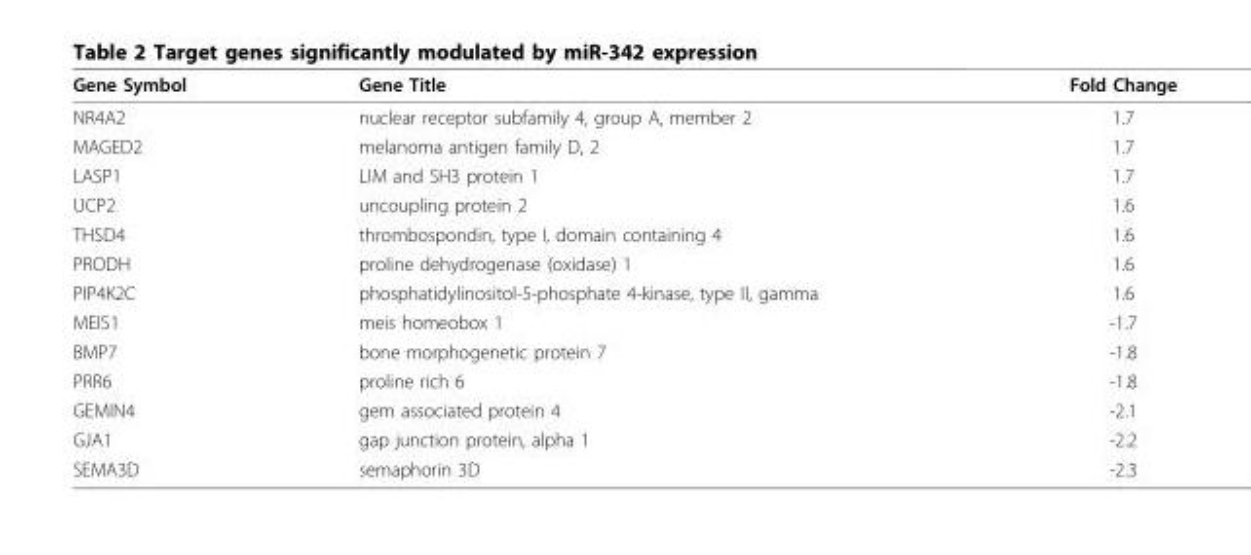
<table><thead><tr><td>Gene Symbol</td><td>Gene Title</td><td>Fold Change</td></tr></thead><tbody><tr><td>NR4A2</td><td>nuclear receptor subfamily 4, group A, member 2</td><td>1.7</td></tr><tr><td>MAGED2</td><td>melanoma antigen family D, 2</td><td>1.7</td></tr><tr><td>LASP1</td><td>LIM and SH3 protein 1</td><td>1.7</td></tr><tr><td>UCP2</td><td>uncoupling protein 2</td><td>1.6</td></tr><tr><td>THSD4</td><td>thrombospondin, type I, domain containing 4</td><td>1.6</td></tr><tr><td>PRODH</td><td>proline dehydrogenase (oxidase) 1</td><td>1.6</td></tr><tr><td>PIP4K2C</td><td>phosphatidylinositol-5-phosphate 4-kinase, type II, gamma</td><td>1.6</td></tr><tr><td>MEIS1</td><td>meis homeobox 1</td><td>-1.7</td></tr><tr><td>BMP7</td><td>bone morphogenetic protein 7</td><td>-1.8</td></tr><tr><td>PRR6</td><td>proline rich 6</td><td>-1.8</td></tr><tr><td>GEMIN4</td><td>gem associated protein 4</td><td>-2.1</td></tr><tr><td>GJA1</td><td>gap junction protein, alpha 1</td><td>-2.2</td></tr><tr><td>SEMA3D</td><td>semaphorin 3D</td><td>-2.3</td></tr></tbody></table>